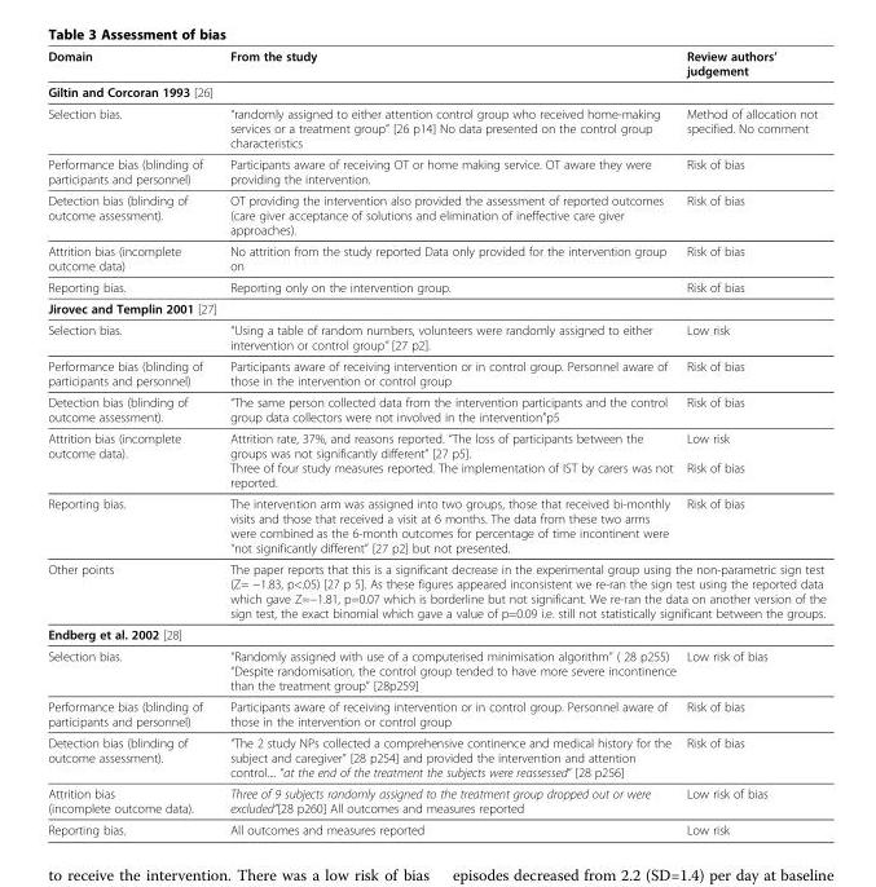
<table><thead><tr><td>Domain</td><td>From the study</td><td>Review authors’ judgement</td></tr></thead><tbody><tr><td colspan="3">Giltin and Corcoran 1993 [26]</td></tr><tr><td>Selection bias.</td><td>“randomly assigned to either attention control group who received home-making services or a treatment group” [26 p14] No data presented on the control group characteristics</td><td>Method of allocation not specified. No comment</td></tr><tr><td>Performance bias (blinding of participants and personnel)</td><td>Participants aware of receiving OT or home making service. OT aware they were providing the intervention.</td><td>Risk of bias</td></tr><tr><td>Detection bias (blinding of outcome assessment).</td><td>OT providing the intervention also provided the assessment of reported outcomes (care giver acceptance of solutions and elimination of ineffective care giver approaches).</td><td>Risk of bias</td></tr><tr><td>Attrition bias (incomplete outcome data)</td><td>No attrition from the study reported Data only provided for the intervention group on</td><td>Risk of bias</td></tr><tr><td>Reporting bias.</td><td>Reporting only on the intervention group.</td><td>Risk of bias</td></tr><tr><td colspan="3">Jirovec and Templin 2001 [27]</td></tr><tr><td>Selection bias.</td><td>“Using a table of random numbers, volunteers were randomly assigned to either intervention or control group” [27 p2].</td><td>Low risk</td></tr><tr><td>Performance bias (blinding of participants and personnel)</td><td>Participants aware of receiving intervention or in control group. Personnel aware of those in the intervention or control group</td><td>Risk of bias</td></tr><tr><td>Detection bias (blinding of outcome assessment).</td><td>“The same person collected data from the intervention participants and the control group data collectors were not involved in the intervention”p5</td><td>Risk of bias</td></tr><tr><td>Attrition bias (incomplete outcome data).</td><td>Attrition rate, 37%, and reasons reported. “The loss of participants between the groups was not significantly different” [27 p5]. Three of four study measures reported. The implementation of IST by carers was not reported.</td><td>Low risk Risk of bias</td></tr><tr><td>Reporting bias.</td><td>The intervention arm was assigned into two groups, those that received bi-monthly visits and those that received a visit at 6 months. The data from these two arms were combined as the 6-month outcomes for percentage of time incontinent were “not significantly different” [27 p2] but not presented.</td><td>Risk of bias</td></tr><tr><td>Other points</td><td colspan="2">The paper reports that this is a significant decrease in the experimental group using the non-parametric sign test (Z= −1.83, p&lt;.05) [27 p 5]. As these figures appeared inconsistent we re-ran the sign test using the reported data which gave Z=−1.81, p=0.07 which is borderline but not significant. We re-ran the data on another version of the sign test, the exact binomial which gave a value of p=0.09 i.e. still not statistically significant between the groups.</td></tr><tr><td colspan="3">Endberg et al. 2002 [28]</td></tr><tr><td>Selection bias.</td><td>“Randomly assigned with use of a computerised minimisation algorithm” ( 28 p255) “Despite randomisation, the control group tended to have more severe incontinence than the treatment group” [28p259]</td><td>Low risk of bias</td></tr><tr><td>Performance bias (blinding of participants and personnel)</td><td>Participants aware of receiving intervention or in control group. Personnel aware of those in the intervention or control group</td><td>Risk of bias</td></tr><tr><td>Detection bias (blinding of outcome assessment).</td><td>“The 2 study NPs collected a comprehensive continence and medical history for the subject and caregiver” [28 p254] and provided the intervention and attention control.... “at the end of the treatment the subjects were reassessed” [28 p256]</td><td>Risk of bias</td></tr><tr><td>Attrition bias (incomplete outcome data).</td><td>Three of 9 subjects randomly assigned to the treatment group dropped out or were excluded”[28 p260] All outcomes and measures reported</td><td>Low risk of bias</td></tr><tr><td>Reporting bias.</td><td>All outcomes and measures reported</td><td>Low risk</td></tr></tbody></table>